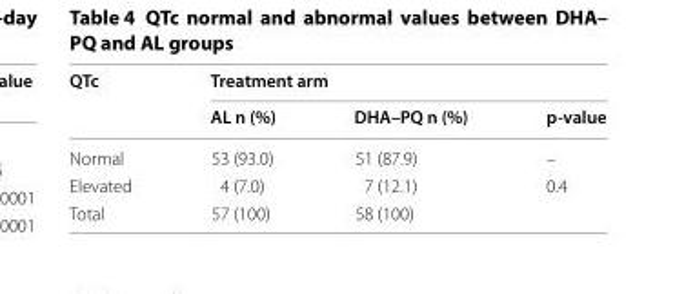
<table><thead><tr><td rowspan="2">QTc</td><td colspan="3">Treatment arm</td></tr><tr><td>AL n (%)</td><td>DHA–PQ n (%)</td><td>p‑value</td></tr></thead><tbody><tr><td>Normal</td><td>53 (93.0)</td><td>51 (87.9)</td><td>–</td></tr><tr><td>Elevated</td><td>4 (7.0)</td><td>7 (12.1)</td><td>0.4</td></tr><tr><td>Total</td><td>57 (100)</td><td>58 (100)</td><td></td></tr></tbody></table>